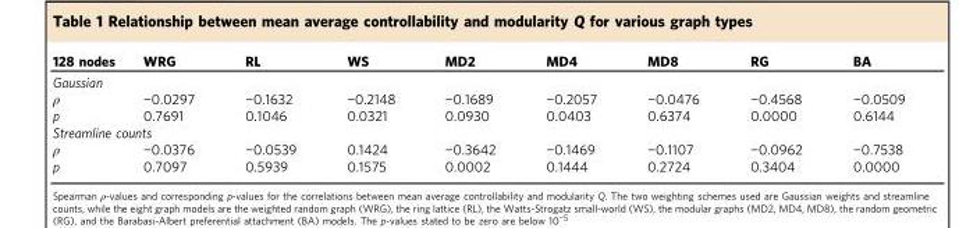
<table><thead><tr><td>128 nodes</td><td>WRG</td><td>RL</td><td>WS</td><td>MD2</td><td>MD4</td><td>MD8</td><td>RG</td><td>BA</td></tr></thead><tbody><tr><td colspan="9">Gaussian</td></tr><tr><td>ρ</td><td>−0.0297</td><td>−0.1632</td><td>−0.2148</td><td>−0.1689</td><td>−0.2057</td><td>−0.0476</td><td>−0.4568</td><td>−0.0509</td></tr><tr><td>p</td><td>0.7691</td><td>0.1046</td><td>0.0321</td><td>0.0930</td><td>0.0403</td><td>0.6374</td><td>0.0000</td><td>0.6144</td></tr><tr><td colspan="9">Streamline counts</td></tr><tr><td>ρ</td><td>−0.0376</td><td>−0.0539</td><td>0.1424</td><td>−0.3642</td><td>−0.1469</td><td>−0.1107</td><td>−0.0962</td><td>−0.7538</td></tr><tr><td>p</td><td>0.7097</td><td>0.5939</td><td>0.1575</td><td>0.0002</td><td>0.1444</td><td>0.2724</td><td>0.3404</td><td>0.0000</td></tr></tbody></table>